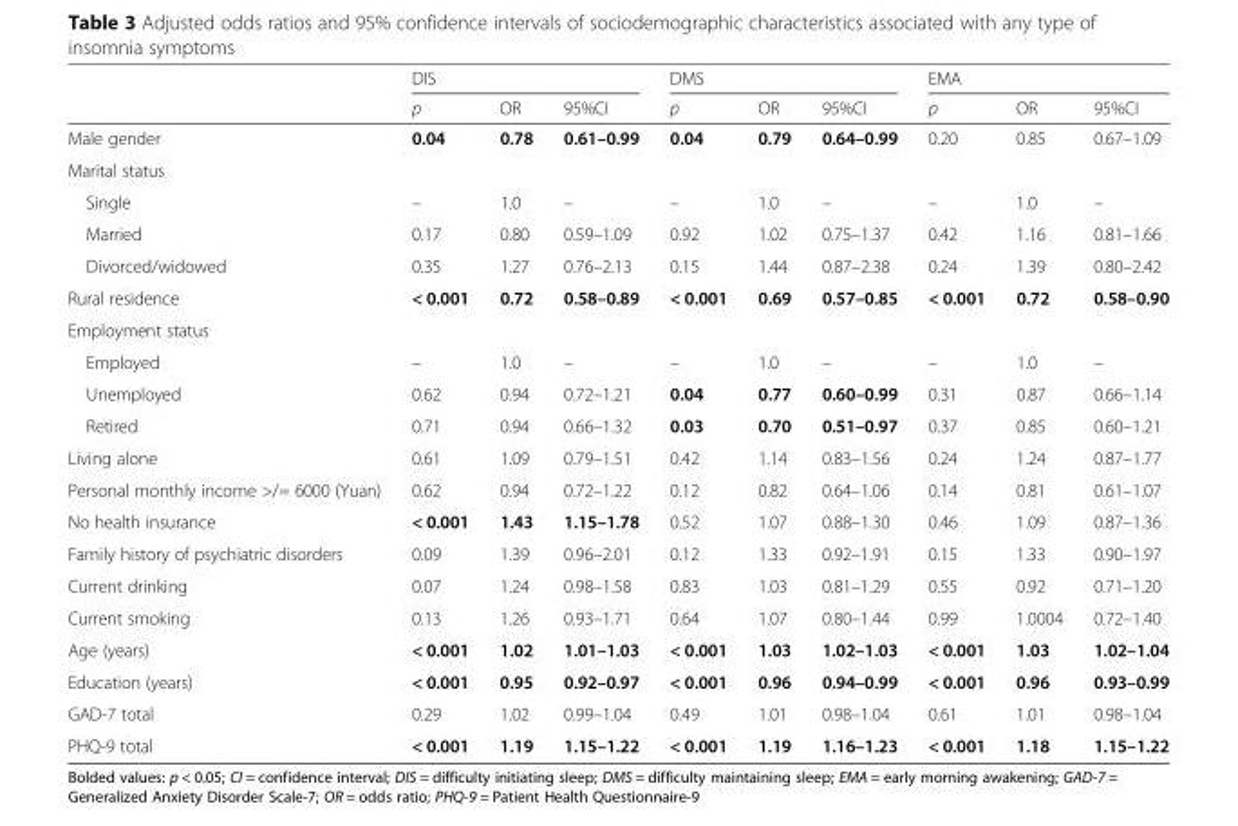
<table><thead><tr><td rowspan="2"></td><td colspan="3">DIS</td><td colspan="3">DMS</td><td colspan="3">EMA</td></tr><tr><td>p</td><td>OR</td><td>95%CI</td><td>p</td><td>OR</td><td>95%CI</td><td>p</td><td>OR</td><td>95%CI</td></tr></thead><tbody><tr><td>Male gender</td><td>0.04</td><td>0.78</td><td>0.61–0.99</td><td>0.04</td><td>0.79</td><td>0.64–0.99</td><td>0.20</td><td>0.85</td><td>0.67–1.09</td></tr><tr><td colspan="10">Marital status</td></tr><tr><td>Single</td><td>–</td><td>1.0</td><td>–</td><td>–</td><td>1.0</td><td>–</td><td>–</td><td>1.0</td><td>–</td></tr><tr><td>Married</td><td>0.17</td><td>0.80</td><td>0.59–1.09</td><td>0.92</td><td>1.02</td><td>0.75–1.37</td><td>0.42</td><td>1.16</td><td>0.81–1.66</td></tr><tr><td>Divorced/widowed</td><td>0.35</td><td>1.27</td><td>0.76–2.13</td><td>0.15</td><td>1.44</td><td>0.87–2.38</td><td>0.24</td><td>1.39</td><td>0.80–2.42</td></tr><tr><td>Rural residence</td><td>&lt; 0.001</td><td>0.72</td><td>0.58–0.89</td><td>&lt; 0.001</td><td>0.69</td><td>0.57–0.85</td><td>&lt; 0.001</td><td>0.72</td><td>0.58–0.90</td></tr><tr><td colspan="10">Employment status</td></tr><tr><td>Employed</td><td>–</td><td>1.0</td><td>–</td><td>–</td><td>1.0</td><td>–</td><td>–</td><td>1.0</td><td>–</td></tr><tr><td>Unemployed</td><td>0.62</td><td>0.94</td><td>0.72–1.21</td><td>0.04</td><td>0.77</td><td>0.60–0.99</td><td>0.31</td><td>0.87</td><td>0.66–1.14</td></tr><tr><td>Retired</td><td>0.71</td><td>0.94</td><td>0.66–1.32</td><td>0.03</td><td>0.70</td><td>0.51–0.97</td><td>0.37</td><td>0.85</td><td>0.60–1.21</td></tr><tr><td>Living alone</td><td>0.61</td><td>1.09</td><td>0.79–1.51</td><td>0.42</td><td>1.14</td><td>0.83–1.56</td><td>0.24</td><td>1.24</td><td>0.87–1.77</td></tr><tr><td>Personal monthly income &gt;/= 6000 (Yuan)</td><td>0.62</td><td>0.94</td><td>0.72–1.22</td><td>0.12</td><td>0.82</td><td>0.64–1.06</td><td>0.14</td><td>0.81</td><td>0.61–1.07</td></tr><tr><td>No health insurance</td><td>&lt; 0.001</td><td>1.43</td><td>1.15–1.78</td><td>0.52</td><td>1.07</td><td>0.88–1.30</td><td>0.46</td><td>1.09</td><td>0.87–1.36</td></tr><tr><td>Family history of psychiatric disorders</td><td>0.09</td><td>1.39</td><td>0.96–2.01</td><td>0.12</td><td>1.33</td><td>0.92–1.91</td><td>0.15</td><td>1.33</td><td>0.90–1.97</td></tr><tr><td>Current drinking</td><td>0.07</td><td>1.24</td><td>0.98–1.58</td><td>0.83</td><td>1.03</td><td>0.81–1.29</td><td>0.55</td><td>0.92</td><td>0.71–1.20</td></tr><tr><td>Current smoking</td><td>0.13</td><td>1.26</td><td>0.93–1.71</td><td>0.64</td><td>1.07</td><td>0.80–1.44</td><td>0.99</td><td>1.0004</td><td>0.72–1.40</td></tr><tr><td>Age (years)</td><td>&lt; 0.001</td><td>1.02</td><td>1.01–1.03</td><td>&lt; 0.001</td><td>1.03</td><td>1.02–1.03</td><td>&lt; 0.001</td><td>1.03</td><td>1.02–1.04</td></tr><tr><td>Education (years)</td><td>&lt; 0.001</td><td>0.95</td><td>0.92–0.97</td><td>&lt; 0.001</td><td>0.96</td><td>0.94–0.99</td><td>&lt; 0.001</td><td>0.96</td><td>0.93–0.99</td></tr><tr><td>GAD-7 total</td><td>0.29</td><td>1.02</td><td>0.99–1.04</td><td>0.49</td><td>1.01</td><td>0.98–1.04</td><td>0.61</td><td>1.01</td><td>0.98–1.04</td></tr><tr><td>PHQ-9 total</td><td>&lt; 0.001</td><td>1.19</td><td>1.15–1.22</td><td>&lt; 0.001</td><td>1.19</td><td>1.16–1.23</td><td>&lt; 0.001</td><td>1.18</td><td>1.15–1.22</td></tr></tbody></table>